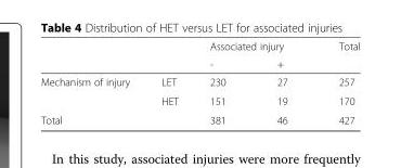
<table><thead><tr><td rowspan="2"></td><td rowspan="2"></td><td colspan="2">Associated injury</td><td rowspan="2">Total</td></tr><tr><td>-</td><td>+</td></tr></thead><tbody><tr><td rowspan="2">Mechanism of injury</td><td>LET</td><td>230</td><td>27</td><td>257</td></tr><tr><td>HET</td><td>151</td><td>19</td><td>170</td></tr><tr><td>Total</td><td></td><td>381</td><td>46</td><td>427</td></tr></tbody></table>